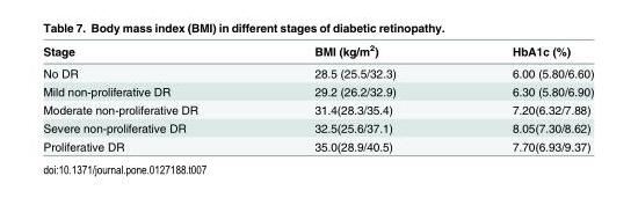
<table><thead><tr><td>Stage</td><td>BMI (kg/m<sup>2</sup>)</td><td>HbA1c (%)</td></tr></thead><tbody><tr><td>No DR</td><td>28.5 (25.5/32.3)</td><td>6.00 (5.80/6.60)</td></tr><tr><td>Mild non-proliferative DR</td><td>29.2 (26.2/32.9)</td><td>6.30 (5.80/6.90)</td></tr><tr><td>Moderate non-proliferative DR</td><td>31.4(28.3/35.4)</td><td>7.20(6.32/7.88)</td></tr><tr><td>Severe non-proliferative DR</td><td>32.5(25.6/37.1)</td><td>8.05(7.30/8.62)</td></tr><tr><td>Proliferative DR</td><td>35.0(28.9/40.5)</td><td>7.70(6.93/9.37)</td></tr></tbody></table>